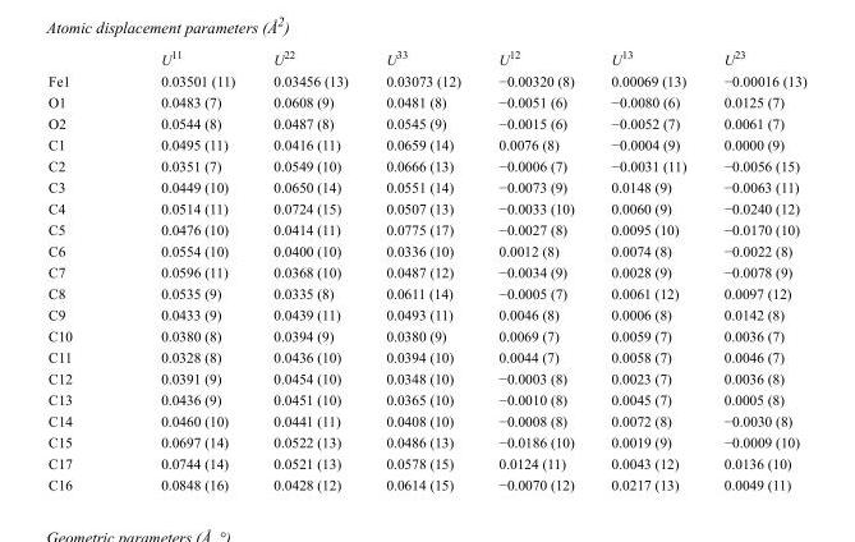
<table><thead><tr><td></td><td>U<sup>11</sup></td><td>U<sup>22</sup></td><td>U<sup>33</sup></td><td>U<sup>12</sup></td><td>U<sup>13</sup></td><td>U<sup>23</sup></td></tr></thead><tbody><tr><td>Fe1</td><td>0.03501 (11)</td><td>0.03456 (13)</td><td>0.03073 (12)</td><td>−0.00320 (8)</td><td>0.00069 (13)</td><td>−0.00016 (13)</td></tr><tr><td>O1</td><td>0.0483 (7)</td><td>0.0608 (9)</td><td>0.0481 (8)</td><td>−0.0051 (6)</td><td>−0.0080 (6)</td><td>0.0125 (7)</td></tr><tr><td>O2</td><td>0.0544 (8)</td><td>0.0487 (8)</td><td>0.0545 (9)</td><td>−0.0015 (6)</td><td>−0.0052 (7)</td><td>0.0061 (7)</td></tr><tr><td>C1</td><td>0.0495 (11)</td><td>0.0416 (11)</td><td>0.0659 (14)</td><td>0.0076 (8)</td><td>−0.0004 (9)</td><td>0.0000 (9)</td></tr><tr><td>C2</td><td>0.0351 (7)</td><td>0.0549 (10)</td><td>0.0666 (13)</td><td>−0.0006 (7)</td><td>−0.0031 (11)</td><td>−0.0056 (15)</td></tr><tr><td>C3</td><td>0.0449 (10)</td><td>0.0650 (14)</td><td>0.0551 (14)</td><td>−0.0073 (9)</td><td>0.0148 (9)</td><td>−0.0063 (11)</td></tr><tr><td>C4</td><td>0.0514 (11)</td><td>0.0724 (15)</td><td>0.0507 (13)</td><td>−0.0033 (10)</td><td>0.0060 (9)</td><td>−0.0240 (12)</td></tr><tr><td>C5</td><td>0.0476 (10)</td><td>0.0414 (11)</td><td>0.0775 (17)</td><td>−0.0027 (8)</td><td>0.0095 (10)</td><td>−0.0170 (10)</td></tr><tr><td>C6</td><td>0.0554 (10)</td><td>0.0400 (10)</td><td>0.0336 (10)</td><td>0.0012 (8)</td><td>0.0074 (8)</td><td>−0.0022 (8)</td></tr><tr><td>C7</td><td>0.0596 (11)</td><td>0.0368 (10)</td><td>0.0487 (12)</td><td>−0.0034 (9)</td><td>0.0028 (9)</td><td>−0.0078 (9)</td></tr><tr><td>C8</td><td>0.0535 (9)</td><td>0.0335 (8)</td><td>0.0611 (14)</td><td>−0.0005 (7)</td><td>0.0061 (12)</td><td>0.0097 (12)</td></tr><tr><td>C9</td><td>0.0433 (9)</td><td>0.0439 (11)</td><td>0.0493 (11)</td><td>0.0046 (8)</td><td>0.0006 (8)</td><td>0.0142 (8)</td></tr><tr><td>C10</td><td>0.0380 (8)</td><td>0.0394 (9)</td><td>0.0380 (9)</td><td>0.0069 (7)</td><td>0.0059 (7)</td><td>0.0036 (7)</td></tr><tr><td>C11</td><td>0.0328 (8)</td><td>0.0436 (10)</td><td>0.0394 (10)</td><td>0.0044 (7)</td><td>0.0058 (7)</td><td>0.0046 (7)</td></tr><tr><td>C12</td><td>0.0391 (9)</td><td>0.0454 (10)</td><td>0.0348 (10)</td><td>−0.0003 (8)</td><td>0.0023 (7)</td><td>0.0036 (8)</td></tr><tr><td>C13</td><td>0.0436 (9)</td><td>0.0451 (10)</td><td>0.0365 (10)</td><td>−0.0010 (8)</td><td>0.0045 (7)</td><td>0.0005 (8)</td></tr><tr><td>C14</td><td>0.0460 (10)</td><td>0.0441 (11)</td><td>0.0408 (10)</td><td>−0.0008 (8)</td><td>0.0072 (8)</td><td>−0.0030 (8)</td></tr><tr><td>C15</td><td>0.0697 (14)</td><td>0.0522 (13)</td><td>0.0486 (13)</td><td>−0.0186 (10)</td><td>0.0019 (9)</td><td>−0.0009 (10)</td></tr><tr><td>C17</td><td>0.0744 (14)</td><td>0.0521 (13)</td><td>0.0578 (15)</td><td>0.0124 (11)</td><td>0.0043 (12)</td><td>0.0136 (10)</td></tr><tr><td>C16</td><td>0.0848 (16)</td><td>0.0428 (12)</td><td>0.0614 (15)</td><td>−0.0070 (12)</td><td>0.0217 (13)</td><td>0.0049 (11)</td></tr></tbody></table>